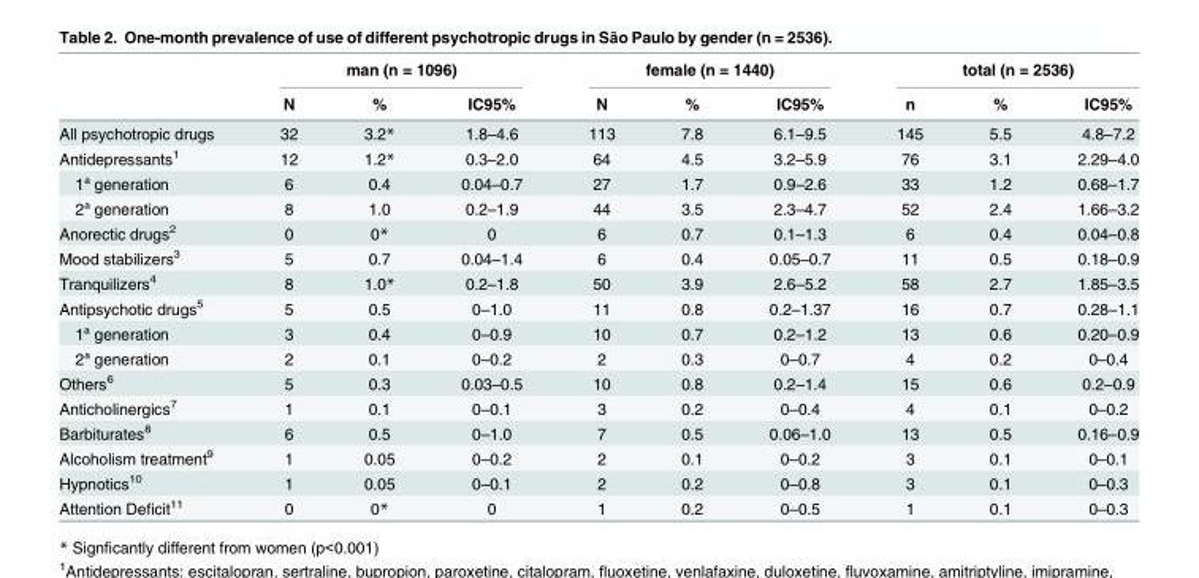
<table><thead><tr><td rowspan="2"></td><td colspan="3">man (n = 1096)</td><td colspan="3">female (n = 1440)</td><td colspan="3">total (n = 2536)</td></tr><tr><td>N</td><td>%</td><td>IC95%</td><td>N</td><td>%</td><td>IC95%</td><td>n</td><td>%</td><td>IC95%</td></tr></thead><tbody><tr><td>All psychotropic drugs</td><td>32</td><td>3.2*</td><td>1.8–4.6</td><td>113</td><td>7.8</td><td>6.1–9.5</td><td>145</td><td>5.5</td><td>4.8–7.2</td></tr><tr><td>Antidepressants<sup>1</sup></td><td>12</td><td>1.2*</td><td>0.3–2.0</td><td>64</td><td>4.5</td><td>3.2–5.9</td><td>76</td><td>3.1</td><td>2.29–4.0</td></tr><tr><td>1ª generation</td><td>6</td><td>0.4</td><td>0.04–0.7</td><td>27</td><td>1.7</td><td>0.9–2.6</td><td>33</td><td>1.2</td><td>0.68–1.7</td></tr><tr><td>2ª generation</td><td>8</td><td>1.0</td><td>0.2–1.9</td><td>44</td><td>3.5</td><td>2.3–4.7</td><td>52</td><td>2.4</td><td>1.66–3.2</td></tr><tr><td>Anorectic drugs<sup>2</sup></td><td>0</td><td>0*</td><td>0</td><td>6</td><td>0.7</td><td>0.1–1.3</td><td>6</td><td>0.4</td><td>0.04–0.8</td></tr><tr><td>Mood stabilizers<sup>3</sup></td><td>5</td><td>0.7</td><td>0.04–1.4</td><td>6</td><td>0.4</td><td>0.05–0.7</td><td>11</td><td>0.5</td><td>0.18–0.9</td></tr><tr><td>Tranquilizers<sup>4</sup></td><td>8</td><td>1.0*</td><td>0.2–1.8</td><td>50</td><td>3.9</td><td>2.6–5.2</td><td>58</td><td>2.7</td><td>1.85–3.5</td></tr><tr><td>Antipsychotic drugs<sup>5</sup></td><td>5</td><td>0.5</td><td>0–1.0</td><td>11</td><td>0.8</td><td>0.2–1.37</td><td>16</td><td>0.7</td><td>0.28–1.1</td></tr><tr><td>1ª generation</td><td>3</td><td>0.4</td><td>0–0.9</td><td>10</td><td>0.7</td><td>0.2–1.2</td><td>13</td><td>0.6</td><td>0.20–0.9</td></tr><tr><td>2ª generation</td><td>2</td><td>0.1</td><td>0–0.2</td><td>2</td><td>0.3</td><td>0–0.7</td><td>4</td><td>0.2</td><td>0–0.4</td></tr><tr><td>Others<sup>6</sup></td><td>5</td><td>0.3</td><td>0.03–0.5</td><td>10</td><td>0.8</td><td>0.2–1.4</td><td>15</td><td>0.6</td><td>0.2–0.9</td></tr><tr><td>Anticholinergics<sup>7</sup></td><td>1</td><td>0.1</td><td>0–0.1</td><td>3</td><td>0.2</td><td>0–0.4</td><td>4</td><td>0.1</td><td>0–0.2</td></tr><tr><td>Barbiturates<sup>8</sup></td><td>6</td><td>0.5</td><td>0–1.0</td><td>7</td><td>0.5</td><td>0.06–1.0</td><td>13</td><td>0.5</td><td>0.16–0.9</td></tr><tr><td>Alcoholism treatment<sup>9</sup></td><td>1</td><td>0.05</td><td>0–0.2</td><td>2</td><td>0.1</td><td>0–0.2</td><td>3</td><td>0.1</td><td>0–0.1</td></tr><tr><td>Hypnotics<sup>10</sup></td><td>1</td><td>0.05</td><td>0–0.1</td><td>2</td><td>0.2</td><td>0–0.8</td><td>3</td><td>0.1</td><td>0–0.3</td></tr><tr><td>Attention Deficit<sup>11</sup></td><td>0</td><td>0*</td><td>0</td><td>1</td><td>0.2</td><td>0–0.5</td><td>1</td><td>0.1</td><td>0–0.3</td></tr></tbody></table>